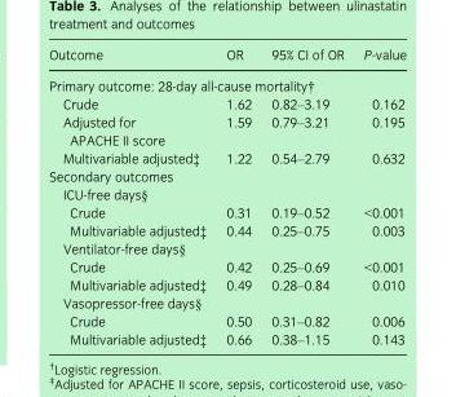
<table><thead><tr><td>Outcome</td><td>OR</td><td>95% CI of OR</td><td>P-value</td></tr></thead><tbody><tr><td colspan="4">Primary outcome: 28-day all-cause mortality†</td></tr><tr><td>Crude</td><td>1.62</td><td>0.82–3.19</td><td>0.162</td></tr><tr><td>Adjusted for APACHE II score</td><td>1.59</td><td>0.79–3.21</td><td>0.195</td></tr><tr><td>Multivariable adjusted‡</td><td>1.22</td><td>0.54–2.79</td><td>0.632</td></tr><tr><td colspan="4">Secondary outcomes</td></tr><tr><td colspan="4">ICU-free days§</td></tr><tr><td>Crude</td><td>0.31</td><td>0.19–0.52</td><td>&lt;0.001</td></tr><tr><td>Multivariable adjusted‡</td><td>0.44</td><td>0.25–0.75</td><td>0.003</td></tr><tr><td colspan="4">Ventilator-free days§</td></tr><tr><td>Crude</td><td>0.42</td><td>0.25–0.69</td><td>&lt;0.001</td></tr><tr><td>Multivariable adjusted‡</td><td>0.49</td><td>0.28–0.84</td><td>0.010</td></tr><tr><td colspan="4">Vasopressor-free days§</td></tr><tr><td>Crude</td><td>0.50</td><td>0.31–0.82</td><td>0.006</td></tr><tr><td>Multivariable adjusted‡</td><td>0.66</td><td>0.38–1.15</td><td>0.143</td></tr></tbody></table>